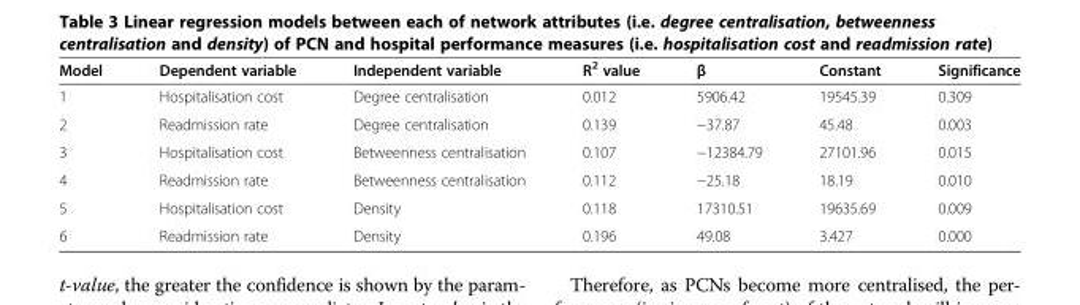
<table><thead><tr><td>Model</td><td>Dependent variable</td><td>Independent variable</td><td>R<sup>2</sup> value</td><td>β</td><td>Constant</td><td>Significance</td></tr></thead><tbody><tr><td>1</td><td>Hospitalisation cost</td><td>Degree centralisation</td><td>0.012</td><td>5906.42</td><td>19545.39</td><td>0.309</td></tr><tr><td>2</td><td>Readmission rate</td><td>Degree centralisation</td><td>0.139</td><td>−37.87</td><td>45.48</td><td>0.003</td></tr><tr><td>3</td><td>Hospitalisation cost</td><td>Betweenness centralisation</td><td>0.107</td><td>−12384.79</td><td>27101.96</td><td>0.015</td></tr><tr><td>4</td><td>Readmission rate</td><td>Betweenness centralisation</td><td>0.112</td><td>−25.18</td><td>18.19</td><td>0.010</td></tr><tr><td>5</td><td>Hospitalisation cost</td><td>Density</td><td>0.118</td><td>17310.51</td><td>19635.69</td><td>0.009</td></tr><tr><td>6</td><td>Readmission rate</td><td>Density</td><td>0.196</td><td>49.08</td><td>3.427</td><td>0.000</td></tr></tbody></table>